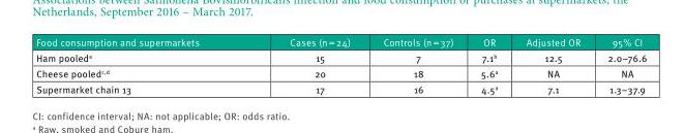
<table><thead><tr><td>Food consumption and supermarkets</td><td>Cases (n = 24)</td><td>Controls (n = 37)</td><td>OR</td><td>Adjusted OR</td><td>95% CI</td></tr></thead><tbody><tr><td>Ham pooled<sup>a</sup></td><td>15</td><td>7</td><td>7.1<sup>b</sup></td><td>12.5</td><td>2.0–76.6</td></tr><tr><td>Cheese pooled<sup>c,d</sup></td><td>20</td><td>18</td><td>5.6<sup>a</sup></td><td>NA</td><td>NA</td></tr><tr><td>Supermarket chain 13</td><td>17</td><td>16</td><td>4.5<sup>a</sup></td><td>7.1</td><td>1.3–37.9</td></tr></tbody></table>